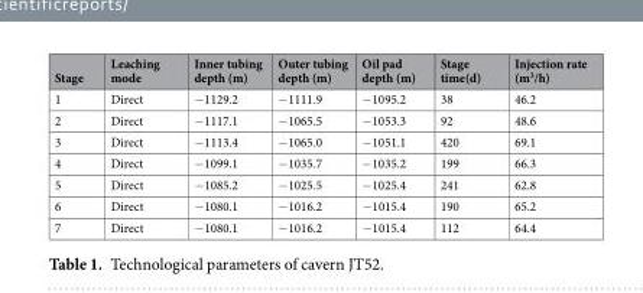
<table><thead><tr><td>Stage</td><td>Leaching mode</td><td>Inner tubing depth (m)</td><td>Outer tubing depth (m)</td><td>Oil pad depth (m)</td><td>Stage time(d)</td><td>Injection rate (m<sup>3</sup>/h)</td></tr></thead><tbody><tr><td>1</td><td>Direct</td><td>−1129.2</td><td>−1111.9</td><td>−1095.2</td><td>38</td><td>46.2</td></tr><tr><td>2</td><td>Direct</td><td>−1117.1</td><td>−1065.5</td><td>−1053.3</td><td>92</td><td>48.6</td></tr><tr><td>3</td><td>Direct</td><td>−1113.4</td><td>−1065.0</td><td>−1051.1</td><td>420</td><td>69.1</td></tr><tr><td>4</td><td>Direct</td><td>−1099.1</td><td>−1035.7</td><td>−1035.2</td><td>199</td><td>66.3</td></tr><tr><td>5</td><td>Direct</td><td>−1085.2</td><td>−1025.5</td><td>−1025.4</td><td>241</td><td>62.8</td></tr><tr><td>6</td><td>Direct</td><td>−1080.1</td><td>−1016.2</td><td>−1015.4</td><td>190</td><td>65.2</td></tr><tr><td>7</td><td>Direct</td><td>−1080.1</td><td>−1016.2</td><td>−1015.4</td><td>112</td><td>64.4</td></tr></tbody></table>